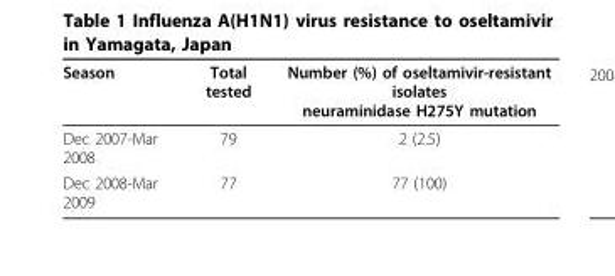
<table><thead><tr><td>Season</td><td>Total tested</td><td>Number (%) of oseltamivir-resistant isolates neuraminidase H275Y mutation</td></tr></thead><tbody><tr><td>Dec 2007-Mar 2008</td><td>79</td><td>2 (2.5)</td></tr><tr><td>Dec 2008-Mar 2009</td><td>77</td><td>77 (100)</td></tr></tbody></table>